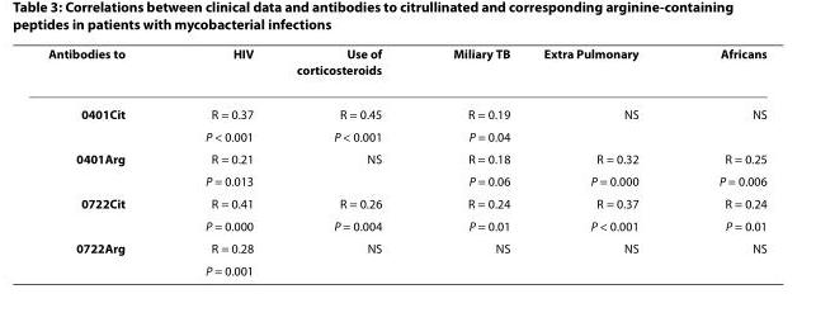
<table><thead><tr><td>Antibodies to</td><td>HIV</td><td>Use of corticosteroids</td><td>Miliary TB</td><td>Extra Pulmonary</td><td>Africans</td></tr></thead><tbody><tr><td rowspan="2">0401Cit</td><td>R = 0.37</td><td>R = 0.45</td><td>R = 0.19</td><td>NS</td><td>NS</td></tr><tr><td>P &lt; 0.001</td><td>P &lt; 0.001</td><td>P = 0.04</td><td></td><td></td></tr><tr><td rowspan="2">0401Arg</td><td>R = 0.21</td><td>NS</td><td>R = 0.18</td><td>R = 0.32</td><td>R = 0.25</td></tr><tr><td>P = 0.013</td><td></td><td>P = 0.06</td><td>P = 0.000</td><td>P = 0.006</td></tr><tr><td rowspan="2">0722Cit</td><td>R = 0.41</td><td>R = 0.26</td><td>R = 0.24</td><td>R = 0.37</td><td>R = 0.24</td></tr><tr><td>P = 0.000</td><td>P = 0.004</td><td>P = 0.01</td><td>P &lt; 0.001</td><td>P = 0.01</td></tr><tr><td rowspan="2">0722Arg</td><td>R = 0.28</td><td>NS</td><td>NS</td><td>NS</td><td>NS</td></tr><tr><td>P = 0.001</td><td></td><td></td><td></td><td></td></tr></tbody></table>